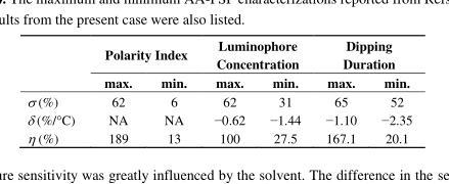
<table><thead><tr><td rowspan="2"></td><td colspan="2">Polarity Index</td><td colspan="2">Luminophore Concentration</td><td colspan="2">Dipping Duration</td></tr><tr><td>max.</td><td>min.</td><td>max.</td><td>min.</td><td>max.</td><td>min.</td></tr></thead><tbody><tr><td>(%)</td><td>62</td><td>6</td><td>62</td><td>31</td><td>65</td><td>52</td></tr><tr><td>(%/C)</td><td>NA</td><td>NA</td><td>−0.62</td><td>−1.44</td><td>−1.10</td><td>−2.35</td></tr><tr><td>(%)</td><td>189</td><td>13</td><td>100</td><td>27.5</td><td>167.1</td><td>20.1</td></tr></tbody></table>